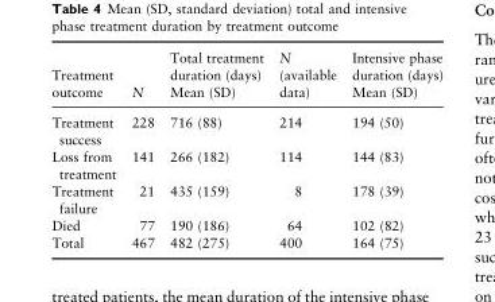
<table><thead><tr><td>Treatment outcome</td><td>N</td><td>Total treatment duration (days) Mean (SD)</td><td>N (available data)</td><td>Intensive phase duration (days) Mean (SD)</td></tr></thead><tbody><tr><td>Treatment success</td><td>228</td><td>716 (88)</td><td>214</td><td>194 (50)</td></tr><tr><td>Loss from treatment</td><td>141</td><td>266 (182)</td><td>114</td><td>144 (83)</td></tr><tr><td>Treatment failure</td><td>21</td><td>435 (159)</td><td>8</td><td>178 (39)</td></tr><tr><td>Died</td><td>77</td><td>190 (186)</td><td>64</td><td>102 (82)</td></tr><tr><td>Total</td><td>467</td><td>482 (275)</td><td>400</td><td>164 (75)</td></tr></tbody></table>